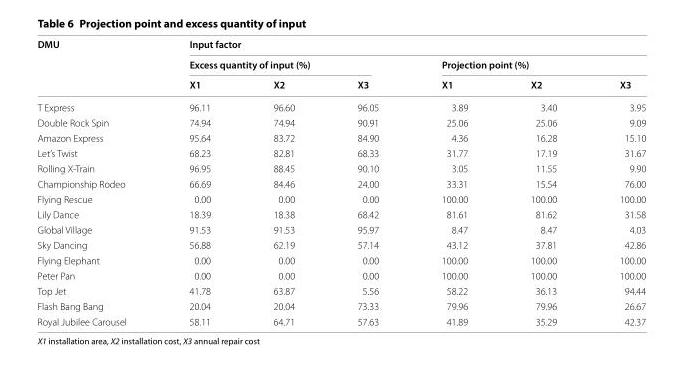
<table><thead><tr><td rowspan="3">DMU</td><td colspan="6">Input factor</td></tr><tr><td colspan="3">Excess quantity of input (%)</td><td colspan="3">Projection point (%)</td></tr><tr><td>X1</td><td>X2</td><td>X3</td><td>X1</td><td>X2</td><td>X3</td></tr></thead><tbody><tr><td>T Express</td><td>96.11</td><td>96.60</td><td>96.05</td><td>3.89</td><td>3.40</td><td>3.95</td></tr><tr><td>Double Rock Spin</td><td>74.94</td><td>74.94</td><td>90.91</td><td>25.06</td><td>25.06</td><td>9.09</td></tr><tr><td>Amazon Express</td><td>95.64</td><td>83.72</td><td>84.90</td><td>4.36</td><td>16.28</td><td>15.10</td></tr><tr><td>Let’s Twist</td><td>68.23</td><td>82.81</td><td>68.33</td><td>31.77</td><td>17.19</td><td>31.67</td></tr><tr><td>Rolling X-Train</td><td>96.95</td><td>88.45</td><td>90.10</td><td>3.05</td><td>11.55</td><td>9.90</td></tr><tr><td>Championship Rodeo</td><td>66.69</td><td>84.46</td><td>24.00</td><td>33.31</td><td>15.54</td><td>76.00</td></tr><tr><td>Flying Rescue</td><td>0.00</td><td>0.00</td><td>0.00</td><td>100.00</td><td>100.00</td><td>100.00</td></tr><tr><td>Lily Dance</td><td>18.39</td><td>18.38</td><td>68.42</td><td>81.61</td><td>81.62</td><td>31.58</td></tr><tr><td>Global Village</td><td>91.53</td><td>91.53</td><td>95.97</td><td>8.47</td><td>8.47</td><td>4.03</td></tr><tr><td>Sky Dancing</td><td>56.88</td><td>62.19</td><td>57.14</td><td>43.12</td><td>37.81</td><td>42.86</td></tr><tr><td>Flying Elephant</td><td>0.00</td><td>0.00</td><td>0.00</td><td>100.00</td><td>100.00</td><td>100.00</td></tr><tr><td>Peter Pan</td><td>0.00</td><td>0.00</td><td>0.00</td><td>100.00</td><td>100.00</td><td>100.00</td></tr><tr><td>Top Jet</td><td>41.78</td><td>63.87</td><td>5.56</td><td>58.22</td><td>36.13</td><td>94.44</td></tr><tr><td>Flash Bang Bang</td><td>20.04</td><td>20.04</td><td>73.33</td><td>79.96</td><td>79.96</td><td>26.67</td></tr><tr><td>Royal Jubilee Carousel</td><td>58.11</td><td>64.71</td><td>57.63</td><td>41.89</td><td>35.29</td><td>42.37</td></tr></tbody></table>